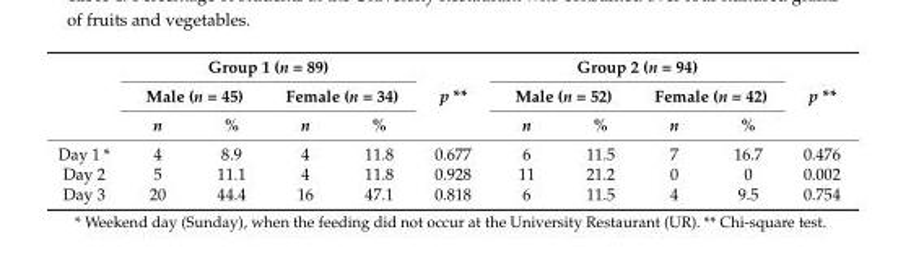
<table><thead><tr><td rowspan="3"></td><td colspan="4">Group 1 (n = 89)</td><td rowspan="3">p **</td><td colspan="4">Group 2 (n = 94)</td><td rowspan="3">p **</td></tr><tr><td colspan="2">Male (n = 45)</td><td colspan="2">Female (n = 34)</td><td colspan="2">Male (n = 52)</td><td colspan="2">Female (n = 42)</td></tr><tr><td>n</td><td>%</td><td>n</td><td>%</td><td>n</td><td>%</td><td>n</td><td>%</td></tr></thead><tbody><tr><td>Day 1 *</td><td>4</td><td>8.9</td><td>4</td><td>11.8</td><td>0.677</td><td>6</td><td>11.5</td><td>7</td><td>16.7</td><td>0.476</td></tr><tr><td>Day 2</td><td>5</td><td>11.1</td><td>4</td><td>11.8</td><td>0.928</td><td>11</td><td>21.2</td><td>0</td><td>0</td><td>0.002</td></tr><tr><td>Day 3</td><td>20</td><td>44.4</td><td>16</td><td>47.1</td><td>0.818</td><td>6</td><td>11.5</td><td>4</td><td>9.5</td><td>0.754</td></tr></tbody></table>